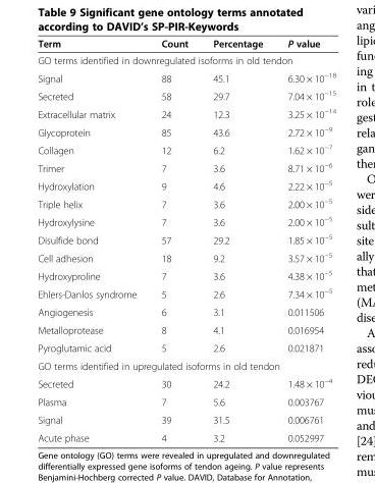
<table><thead><tr><td>Term</td><td>Count</td><td>Percentage</td><td>P value</td></tr></thead><tbody><tr><td colspan="4">GO terms identified in downregulated isoforms in old tendon</td></tr><tr><td>Signal</td><td>88</td><td>45.1</td><td>6.30 × 10<sup>−18</sup></td></tr><tr><td>Secreted</td><td>58</td><td>29.7</td><td>7.04 × 10<sup>−15</sup></td></tr><tr><td>Extracellular matrix</td><td>24</td><td>12.3</td><td>3.25 × 10<sup>−14</sup></td></tr><tr><td>Glycoprotein</td><td>85</td><td>43.6</td><td>2.72 × 10<sup>−9</sup></td></tr><tr><td>Collagen</td><td>12</td><td>6.2</td><td>1.62 × 10<sup>−7</sup></td></tr><tr><td>Trimer</td><td>7</td><td>3.6</td><td>8.71 × 10<sup>−6</sup></td></tr><tr><td>Hydroxylation</td><td>9</td><td>4.6</td><td>2.22 × 10<sup>−5</sup></td></tr><tr><td>Triple helix</td><td>7</td><td>3.6</td><td>2.00 × 10<sup>−5</sup></td></tr><tr><td>Hydroxylysine</td><td>7</td><td>3.6</td><td>2.00 × 10<sup>−5</sup></td></tr><tr><td>Disulfide bond</td><td>57</td><td>29.2</td><td>1.85 × 10<sup>−5</sup></td></tr><tr><td>Cell adhesion</td><td>18</td><td>9.2</td><td>3.57 × 10<sup>−5</sup></td></tr><tr><td>Hydroxyproline</td><td>7</td><td>3.6</td><td>4.38 × 10<sup>−5</sup></td></tr><tr><td>Ehlers-Danlos syndrome</td><td>5</td><td>2.6</td><td>7.34 × 10<sup>−5</sup></td></tr><tr><td>Angiogenesis</td><td>6</td><td>3.1</td><td>0.011506</td></tr><tr><td>Metalloprotease</td><td>8</td><td>4.1</td><td>0.016954</td></tr><tr><td>Pyroglutamic acid</td><td>5</td><td>2.6</td><td>0.021871</td></tr><tr><td colspan="4">GO terms identified in upregulated isoforms in old tendon</td></tr><tr><td>Secreted</td><td>30</td><td>24.2</td><td>1.48 × 10<sup>−4</sup></td></tr><tr><td>Plasma</td><td>7</td><td>5.6</td><td>0.003767</td></tr><tr><td>Signal</td><td>39</td><td>31.5</td><td>0.006761</td></tr><tr><td>Acute phase</td><td>4</td><td>3.2</td><td>0.052997</td></tr></tbody></table>